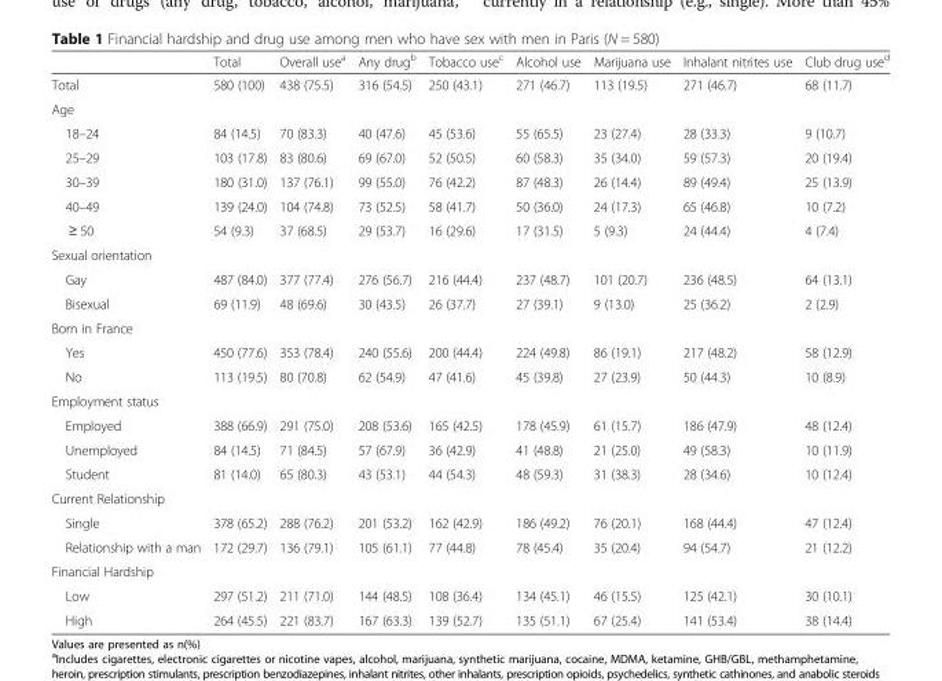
<table><thead><tr><td></td><td>Total</td><td>Overall use<sup>a</sup></td><td>Any drug<sup>b</sup></td><td>Tobacco use<sup>c</sup></td><td>Alcohol use</td><td>Marijuana use</td><td>Inhalant nitrites use</td><td>Club drug use<sup>d</sup></td></tr></thead><tbody><tr><td>Total</td><td>580 (100)</td><td>438 (75.5)</td><td>316 (54.5)</td><td>250 (43.1)</td><td>271 (46.7)</td><td>113 (19.5)</td><td>271 (46.7)</td><td>68 (11.7)</td></tr><tr><td colspan="9">Age</td></tr><tr><td>18–24</td><td>84 (14.5)</td><td>70 (83.3)</td><td>40 (47.6)</td><td>45 (53.6)</td><td>55 (65.5)</td><td>23 (27.4)</td><td>28 (33.3)</td><td>9 (10.7)</td></tr><tr><td>25–29</td><td>103 (17.8)</td><td>83 (80.6)</td><td>69 (67.0)</td><td>52 (50.5)</td><td>60 (58.3)</td><td>35 (34.0)</td><td>59 (57.3)</td><td>20 (19.4)</td></tr><tr><td>30–39</td><td>180 (31.0)</td><td>137 (76.1)</td><td>99 (55.0)</td><td>76 (42.2)</td><td>87 (48.3)</td><td>26 (14.4)</td><td>89 (49.4)</td><td>25 (13.9)</td></tr><tr><td>40–49</td><td>139 (24.0)</td><td>104 (74.8)</td><td>73 (52.5)</td><td>58 (41.7)</td><td>50 (36.0)</td><td>24 (17.3)</td><td>65 (46.8)</td><td>10 (7.2)</td></tr><tr><td>≥ 50</td><td>54 (9.3)</td><td>37 (68.5)</td><td>29 (53.7)</td><td>16 (29.6)</td><td>17 (31.5)</td><td>5 (9.3)</td><td>24 (44.4)</td><td>4 (7.4)</td></tr><tr><td colspan="9">Sexual orientation</td></tr><tr><td>Gay</td><td>487 (84.0)</td><td>377 (77.4)</td><td>276 (56.7)</td><td>216 (44.4)</td><td>237 (48.7)</td><td>101 (20.7)</td><td>236 (48.5)</td><td>64 (13.1)</td></tr><tr><td>Bisexual</td><td>69 (11.9)</td><td>48 (69.6)</td><td>30 (43.5)</td><td>26 (37.7)</td><td>27 (39.1)</td><td>9 (13.0)</td><td>25 (36.2)</td><td>2 (2.9)</td></tr><tr><td colspan="9">Born in France</td></tr><tr><td>Yes</td><td>450 (77.6)</td><td>353 (78.4)</td><td>240 (55.6)</td><td>200 (44.4)</td><td>224 (49.8)</td><td>86 (19.1)</td><td>217 (48.2)</td><td>58 (12.9)</td></tr><tr><td>No</td><td>113 (19.5)</td><td>80 (70.8)</td><td>62 (54.9)</td><td>47 (41.6)</td><td>45 (39.8)</td><td>27 (23.9)</td><td>50 (44.3)</td><td>10 (8.9)</td></tr><tr><td colspan="9">Employment status</td></tr><tr><td>Employed</td><td>388 (66.9)</td><td>291 (75.0)</td><td>208 (53.6)</td><td>165 (42.5)</td><td>178 (45.9)</td><td>61 (15.7)</td><td>186 (47.9)</td><td>48 (12.4)</td></tr><tr><td>Unemployed</td><td>84 (14.5)</td><td>71 (84.5)</td><td>57 (67.9)</td><td>36 (42.9)</td><td>41 (48.8)</td><td>21 (25.0)</td><td>49 (58.3)</td><td>10 (11.9)</td></tr><tr><td>Student</td><td>81 (14.0)</td><td>65 (80.3)</td><td>43 (53.1)</td><td>44 (54.3)</td><td>48 (59.3)</td><td>31 (38.3)</td><td>28 (34.6)</td><td>10 (12.4)</td></tr><tr><td colspan="9">Current Relationship</td></tr><tr><td>Single</td><td>378 (65.2)</td><td>288 (76.2)</td><td>201 (53.2)</td><td>162 (42.9)</td><td>186 (49.2)</td><td>76 (20.1)</td><td>168 (44.4)</td><td>47 (12.4)</td></tr><tr><td>Relationship with a man</td><td>172 (29.7)</td><td>136 (79.1)</td><td>105 (61.1)</td><td>77 (44.8)</td><td>78 (45.4)</td><td>35 (20.4)</td><td>94 (54.7)</td><td>21 (12.2)</td></tr><tr><td colspan="9">Financial Hardship</td></tr><tr><td>Low</td><td>297 (51.2)</td><td>211 (71.0)</td><td>144 (48.5)</td><td>108 (36.4)</td><td>134 (45.1)</td><td>46 (15.5)</td><td>125 (42.1)</td><td>30 (10.1)</td></tr><tr><td>High</td><td>264 (45.5)</td><td>221 (83.7)</td><td>167 (63.3)</td><td>139 (52.7)</td><td>135 (51.1)</td><td>67 (25.4)</td><td>141 (53.4)</td><td>38 (14.4)</td></tr></tbody></table>